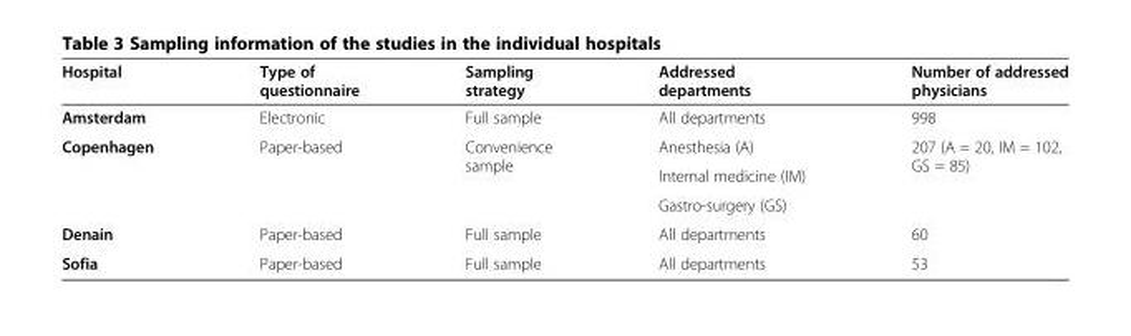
<table><thead><tr><td>Hospital</td><td>Type of questionnaire</td><td>Sampling strategy</td><td>Addressed departments</td><td>Number of addressed physicians</td></tr></thead><tbody><tr><td>Amsterdam</td><td>Electronic</td><td>Full sample</td><td>All departments</td><td>998</td></tr><tr><td rowspan="3">Copenhagen</td><td rowspan="3">Paper-based</td><td rowspan="3">Convenience sample</td><td>Anesthesia (A)</td><td rowspan="3">207 (A = 20, IM = 102, GS = 85)</td></tr><tr><td>Internal medicine (IM)</td></tr><tr><td>Gastro-surgery (GS)</td></tr><tr><td>Denain</td><td>Paper-based</td><td>Full sample</td><td>All departments</td><td>60</td></tr><tr><td>Sofia</td><td>Paper-based</td><td>Full sample</td><td>All departments</td><td>53</td></tr></tbody></table>